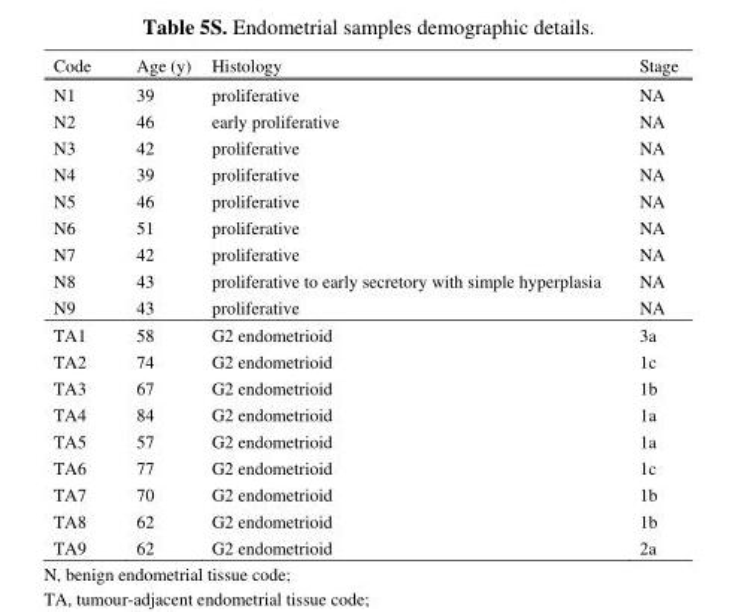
<table><thead><tr><td>Code</td><td>Age (y)</td><td>Histology</td><td>Stage</td></tr></thead><tbody><tr><td>N1</td><td>39</td><td>proliferative</td><td>NA</td></tr><tr><td>N2</td><td>46</td><td>early proliferative</td><td>NA</td></tr><tr><td>N3</td><td>42</td><td>proliferative</td><td>NA</td></tr><tr><td>N4</td><td>39</td><td>proliferative</td><td>NA</td></tr><tr><td>N5</td><td>46</td><td>proliferative</td><td>NA</td></tr><tr><td>N6</td><td>51</td><td>proliferative</td><td>NA</td></tr><tr><td>N7</td><td>42</td><td>proliferative</td><td>NA</td></tr><tr><td>N8</td><td>43</td><td>proliferative to early secretory with simple hyperplasia</td><td>NA</td></tr><tr><td>N9</td><td>43</td><td>proliferative</td><td>NA</td></tr><tr><td>TA1</td><td>58</td><td>G2 endometrioid</td><td>3a</td></tr><tr><td>TA2</td><td>74</td><td>G2 endometrioid</td><td>1c</td></tr><tr><td>TA3</td><td>67</td><td>G2 endometrioid</td><td>1b</td></tr><tr><td>TA4</td><td>84</td><td>G2 endometrioid</td><td>1a</td></tr><tr><td>TA5</td><td>57</td><td>G2 endometrioid</td><td>1a</td></tr><tr><td>TA6</td><td>77</td><td>G2 endometrioid</td><td>1c</td></tr><tr><td>TA7</td><td>70</td><td>G2 endometrioid</td><td>1b</td></tr><tr><td>TA8</td><td>62</td><td>G2 endometrioid</td><td>1b</td></tr><tr><td>TA9</td><td>62</td><td>G2 endometrioid</td><td>2a</td></tr></tbody></table>